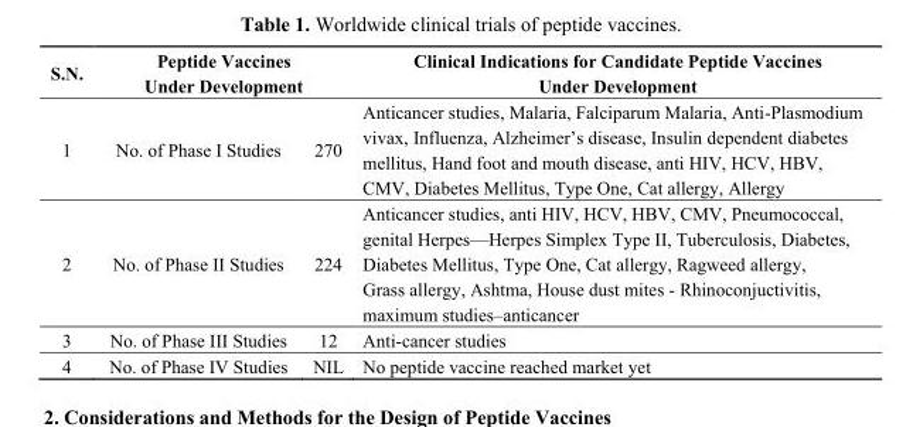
<table><thead><tr><td rowspan="2">S.N. 1</td><td colspan="2">Peptide Vaccines Under Development</td><td rowspan="2">Clinical Indications for Candidate Peptide Vaccines Under Development Anticancer studies, Malaria, Falciparum Malaria, Anti-Plasmodium vivax, Influenza, Alzheimer’s disease, Insulin dependent diabetes mellitus, Hand foot and mouth disease, anti HIV, HCV, HBV, CMV, Diabetes Mellitus, Type One, Cat allergy, Allergy</td></tr><tr><td>No. of Phase I Studies</td><td>270</td></tr></thead><tbody><tr><td>2</td><td>No. of Phase II Studies</td><td>224</td><td>Anticancer studies, anti HIV, HCV, HBV, CMV, Pneumococcal, genital Herpes—Herpes Simplex Type II, Tuberculosis, Diabetes, Diabetes Mellitus, Type One, Cat allergy, Ragweed allergy, Grass allergy, Ashtma, House dust mites - Rhinoconjuctivitis, maximum studies–anticancer</td></tr><tr><td>3</td><td>No. of Phase III Studies</td><td>12</td><td>Anti-cancer studies</td></tr><tr><td>4</td><td>No. of Phase IV Studies</td><td>NIL</td><td>No peptide vaccine reached market yet</td></tr></tbody></table>